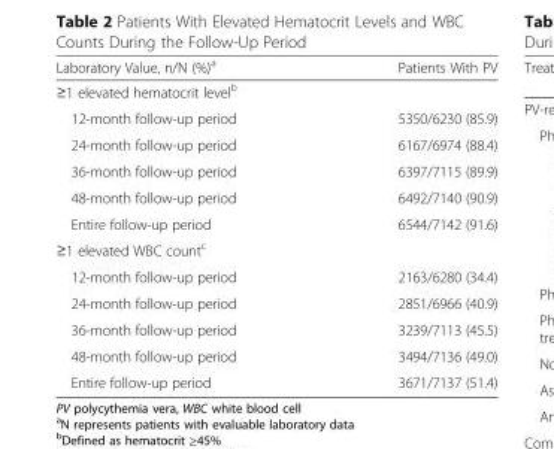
<table><thead><tr><td>Laboratory Value, n/N (%)<sup>a</sup></td><td>Patients With PV</td></tr></thead><tbody><tr><td colspan="2">≥1 elevated hematocrit level<sup>b</sup></td></tr><tr><td>12-month follow-up period</td><td>5350/6230 (85.9)</td></tr><tr><td>24-month follow-up period</td><td>6167/6974 (88.4)</td></tr><tr><td>36-month follow-up period</td><td>6397/7115 (89.9)</td></tr><tr><td>48-month follow-up period</td><td>6492/7140 (90.9)</td></tr><tr><td>Entire follow-up period</td><td>6544/7142 (91.6)</td></tr><tr><td colspan="2">≥1 elevated WBC count<sup>c</sup></td></tr><tr><td>12-month follow-up period</td><td>2163/6280 (34.4)</td></tr><tr><td>24-month follow-up period</td><td>2851/6966 (40.9)</td></tr><tr><td>36-month follow-up period</td><td>3239/7113 (45.5)</td></tr><tr><td>48-month follow-up period</td><td>3494/7136 (49.0)</td></tr><tr><td>Entire follow-up period</td><td>3671/7137 (51.4)</td></tr></tbody></table>